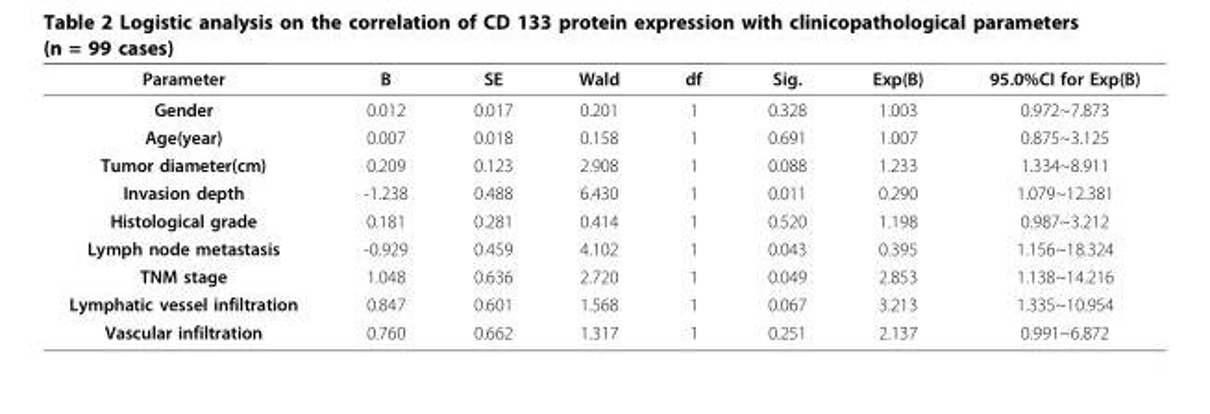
<table><thead><tr><td>Parameter</td><td>B</td><td>SE</td><td>Wald</td><td>df</td><td>Sig.</td><td>Exp(B)</td><td>95.0%CI for Exp(B)</td></tr></thead><tbody><tr><td>Gender</td><td>0.012</td><td>0.017</td><td>0.201</td><td>1</td><td>0.328</td><td>1.003</td><td>0.972~7.873</td></tr><tr><td>Age(year)</td><td>0.007</td><td>0.018</td><td>0.158</td><td>1</td><td>0.691</td><td>1.007</td><td>0.875~3.125</td></tr><tr><td>Tumor diameter(cm)</td><td>0.209</td><td>0.123</td><td>2.908</td><td>1</td><td>0.088</td><td>1.233</td><td>1.334~8.911</td></tr><tr><td>Invasion depth</td><td>-1.238</td><td>0.488</td><td>6.430</td><td>1</td><td>0.011</td><td>0.290</td><td>1.079~12.381</td></tr><tr><td>Histological grade</td><td>0.181</td><td>0.281</td><td>0.414</td><td>1</td><td>0.520</td><td>1.198</td><td>0.987~3.212</td></tr><tr><td>Lymph node metastasis</td><td>-0.929</td><td>0.459</td><td>4.102</td><td>1</td><td>0.043</td><td>0.395</td><td>1.156~18.324</td></tr><tr><td>TNM stage</td><td>1.048</td><td>0.636</td><td>2.720</td><td>1</td><td>0.049</td><td>2.853</td><td>1.138~14.216</td></tr><tr><td>Lymphatic vessel infiltration</td><td>0.847</td><td>0.601</td><td>1.568</td><td>1</td><td>0.067</td><td>3.213</td><td>1.335~10.954</td></tr><tr><td>Vascular infiltration</td><td>0.760</td><td>0.662</td><td>1.317</td><td>1</td><td>0.251</td><td>2.137</td><td>0.991~6.872</td></tr></tbody></table>